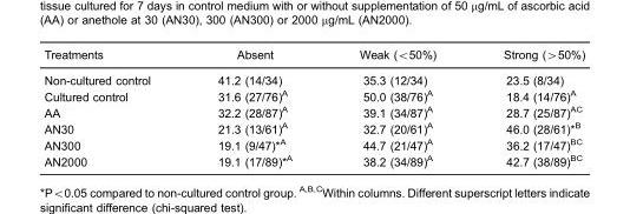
<table><thead><tr><td>Treatments</td><td>Absent</td><td>Weak (&lt;50%)</td><td>Strong (&gt;50%)</td></tr></thead><tbody><tr><td>Non-cultured control</td><td>41.2 (14/34)</td><td>35.3 (12/34)</td><td>23.5 (8/34)</td></tr><tr><td>Cultured control</td><td>31.6 (27/76)<sup>A</sup></td><td>50.0 (38/76)<sup>A</sup></td><td>18.4 (14/76)<sup>A</sup></td></tr><tr><td>AA</td><td>32.2 (28/87)<sup>A</sup></td><td>39.1 (34/87)<sup>A</sup></td><td>28.7 (25/87)<sup>AC</sup></td></tr><tr><td>AN30</td><td>21.3 (13/61)<sup>A</sup></td><td>32.7 (20/61)<sup>A</sup></td><td>46.0 (28/61)*<sup>B</sup></td></tr><tr><td>AN300</td><td>19.1 (9/47)*<sup>A</sup></td><td>44.7 (21/47)<sup>A</sup></td><td>36.2 (17/47)<sup>BC</sup></td></tr><tr><td>AN2000</td><td>19.1 (17/89)*<sup>A</sup></td><td>38.2 (34/89)<sup>A</sup></td><td>42.7 (38/89)<sup>BC</sup></td></tr></tbody></table>